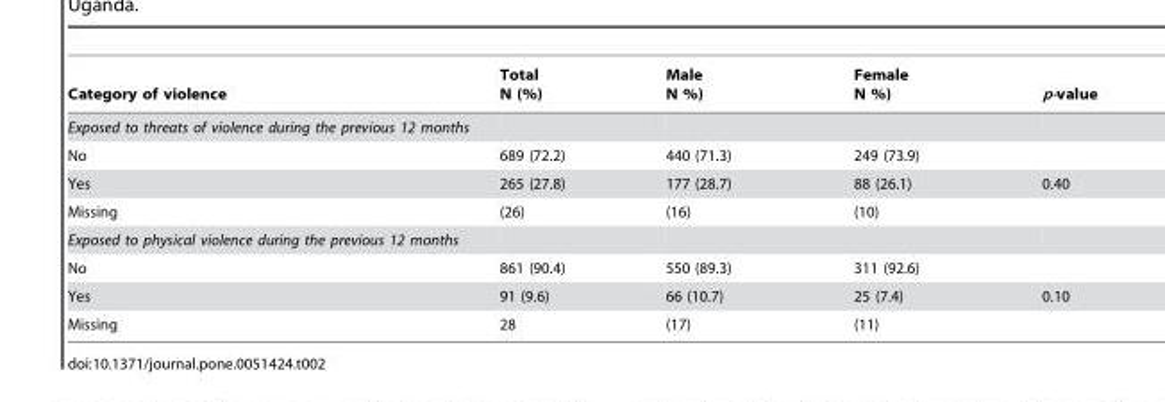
<table><thead><tr><td>Category of violence</td><td>Total N (%)</td><td>Male N %)</td><td>Female N %)</td><td>p-value</td></tr></thead><tbody><tr><td colspan="5">Exposed to threats of violence during the previous 12 months</td></tr><tr><td>No</td><td>689 (72.2)</td><td>440 (71.3)</td><td>249 (73.9)</td><td></td></tr><tr><td>Yes</td><td>265 (27.8)</td><td>177 (28.7)</td><td>88 (26.1)</td><td>0.40</td></tr><tr><td>Missing</td><td>(26)</td><td>(16)</td><td>(10)</td><td></td></tr><tr><td colspan="5">Exposed to physical violence during the previous 12 months</td></tr><tr><td>No</td><td>861 (90.4)</td><td>550 (89.3)</td><td>311 (92.6)</td><td></td></tr><tr><td>Yes</td><td>91 (9.6)</td><td>66 (10.7)</td><td>25 (7.4)</td><td>0.10</td></tr><tr><td>Missing</td><td>28</td><td>(17)</td><td>(11)</td><td></td></tr></tbody></table>